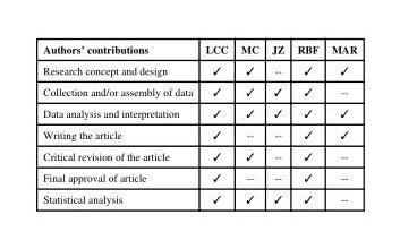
<table><thead><tr><td>Authors’ contributions</td><td>LCC</td><td>MC</td><td>JZ</td><td>RBF</td><td>MAR</td></tr></thead><tbody><tr><td>Research concept and design</td><td>✓</td><td>✓</td><td>--</td><td>✓</td><td>✓</td></tr><tr><td>Collection and/or assembly of data</td><td>✓</td><td>✓</td><td>✓</td><td>✓</td><td>--</td></tr><tr><td>Data analysis and interpretation</td><td>✓</td><td>✓</td><td>✓</td><td>✓</td><td>✓</td></tr><tr><td>Writing the article</td><td>✓</td><td>--</td><td>--</td><td>✓</td><td>✓</td></tr><tr><td>Critical revision of the article</td><td>✓</td><td>✓</td><td>--</td><td>✓</td><td>--</td></tr><tr><td>Final approval of article</td><td>✓</td><td>--</td><td>--</td><td>✓</td><td>--</td></tr><tr><td>Statistical analysis</td><td>✓</td><td>✓</td><td>✓</td><td>✓</td><td>--</td></tr></tbody></table>